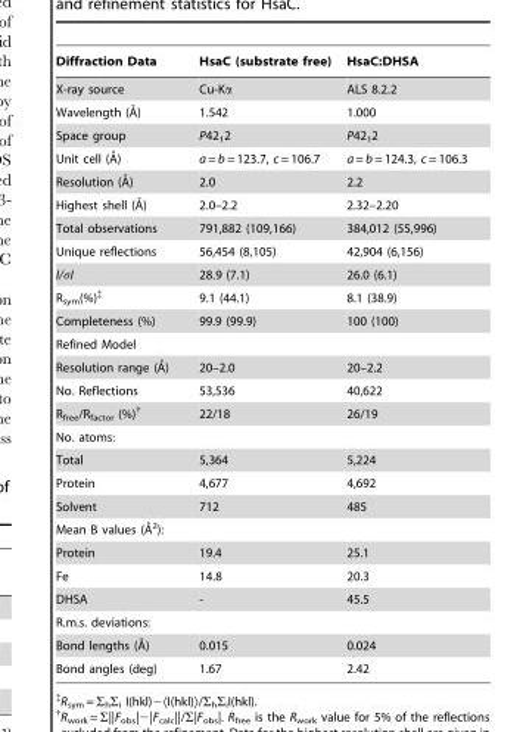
<table><thead><tr><td>Diffraction Data</td><td>HsaC (substrate free)</td><td>HsaC:DHSA</td></tr></thead><tbody><tr><td>X-ray source</td><td>Cu-Kα</td><td>ALS 8.2.2</td></tr><tr><td>Wavelength (A˚)</td><td>1.542</td><td>1.000</td></tr><tr><td>Space group</td><td>P42<sub>1</sub>2</td><td>P42<sub>1</sub>2</td></tr><tr><td>Unit cell (A˚)</td><td>a = b = 123.7, c = 106.7</td><td>a = b = 124.3, c = 106.3</td></tr><tr><td>Resolution (A˚)</td><td>2.0</td><td>2.2</td></tr><tr><td>Highest shell (A˚)</td><td>2.0–2.2</td><td>2.32–2.20</td></tr><tr><td>Total observations</td><td>791,882 (109,166)</td><td>384,012 (55,996)</td></tr><tr><td>Unique reflections</td><td>56,454 (8,105)</td><td>42,904 (6,156)</td></tr><tr><td>I/σI</td><td>28.9 (7.1)</td><td>26.0 (6.1)</td></tr><tr><td>R<sub>sym</sub>(%)‡</td><td>9.1 (44.1)</td><td>8.1 (38.9)</td></tr><tr><td>Completeness (%)</td><td>99.9 (99.9)</td><td>100 (100)</td></tr><tr><td colspan="3">Refined Model</td></tr><tr><td>Resolution range (A˚)</td><td>20–2.0</td><td>20–2.2</td></tr><tr><td>No. Reflections</td><td>53,536</td><td>40,622</td></tr><tr><td>R<sub>free</sub>/R<sub>factor</sub> (%)†</td><td>22/18</td><td>26/19</td></tr><tr><td colspan="3">No. atoms:</td></tr><tr><td>Total</td><td>5,364</td><td>5,224</td></tr><tr><td>Protein</td><td>4,677</td><td>4,692</td></tr><tr><td>Solvent</td><td>712</td><td>485</td></tr><tr><td colspan="3">Mean B values (A˚ 2):</td></tr><tr><td>Protein</td><td>19.4</td><td>25.1</td></tr><tr><td>Fe</td><td>14.8</td><td>20.3</td></tr><tr><td>DHSA</td><td>-</td><td>45.5</td></tr><tr><td colspan="3">R.m.s. deviations:</td></tr><tr><td>Bond lengths (A˚)</td><td>0.015</td><td>0.024</td></tr><tr><td>Bond angles (deg)</td><td>1.67</td><td>2.42</td></tr></tbody></table>